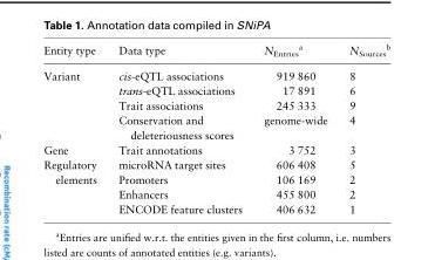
<table><thead><tr><td>Entity type</td><td>Data type</td><td>N<sub>Entries</sub> <sup>a</sup></td><td>N<sub>Sources</sub> <sup>b</sup></td></tr></thead><tbody><tr><td rowspan="4">Variant</td><td>cis-eQTL associations</td><td>919 860</td><td>8</td></tr><tr><td>trans-eQTL associations</td><td>17 891</td><td>6</td></tr><tr><td>Trait associations</td><td>245 333</td><td>9</td></tr><tr><td>Conservation and deleteriousness scores</td><td>genome-wide</td><td>4</td></tr><tr><td>Gene</td><td>Trait annotations</td><td>3 752</td><td>3</td></tr><tr><td rowspan="4">Regulatory elements</td><td>microRNA target sites</td><td>606 408</td><td>5</td></tr><tr><td>Promoters</td><td>106 169</td><td>2</td></tr><tr><td>Enhancers</td><td>455 800</td><td>2</td></tr><tr><td>ENCODE feature clusters</td><td>406 632</td><td>1</td></tr></tbody></table>